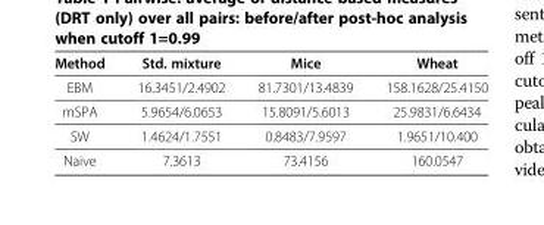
<table><thead><tr><td>Method</td><td>Std. mixture</td><td>Mice</td><td>Wheat</td></tr></thead><tbody><tr><td>EBM</td><td>16.3451/2.4902</td><td>81.7301/13.4839</td><td>158.1628/25.4150</td></tr><tr><td>mSPA</td><td>5.9654/6.0653</td><td>15.8091/5.6013</td><td>25.9831/6.6434</td></tr><tr><td>SW</td><td>1.4624/1.7551</td><td>0.8483/7.9597</td><td>1.9651/10.400</td></tr><tr><td>Naive</td><td>7.3613</td><td>73.4156</td><td>160.0547</td></tr></tbody></table>